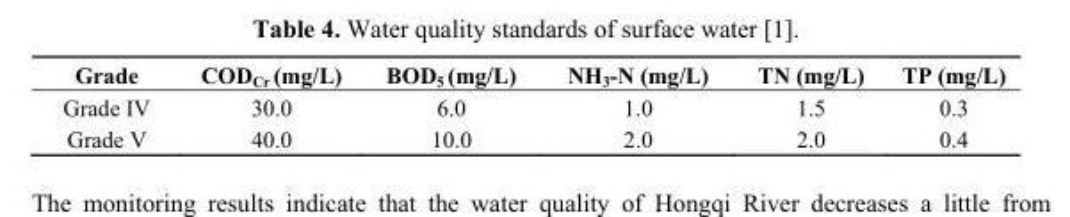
<table><thead><tr><td>Grade</td><td>COD<sub>Cr</sub> (mg/L)</td><td>BOD<sub>5</sub> (mg/L)</td><td>NH<sub>3</sub>-N (mg/L)</td><td>TN (mg/L)</td><td>TP (mg/L)</td></tr></thead><tbody><tr><td>Grade IV</td><td>30.0</td><td>6.0</td><td>1.0</td><td>1.5</td><td>0.3</td></tr><tr><td>Grade V</td><td>40.0</td><td>10.0</td><td>2.0</td><td>2.0</td><td>0.4</td></tr></tbody></table>